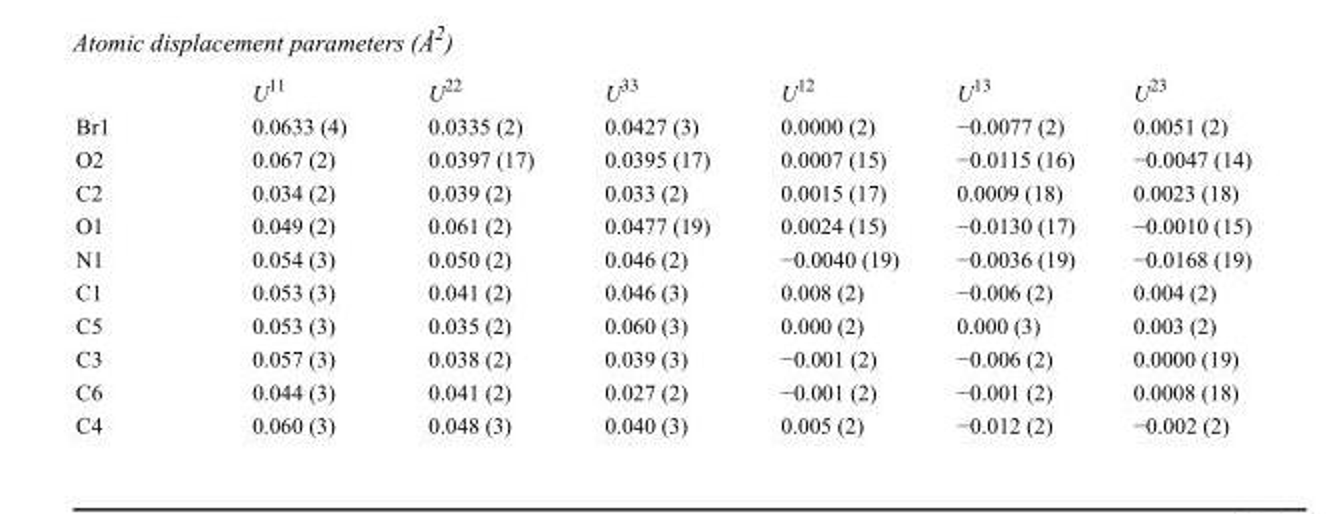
<table><thead><tr><td></td><td>U<sup>11</sup></td><td>U<sup>22</sup></td><td>U<sup>33</sup></td><td>U<sup>12</sup></td><td>U<sup>13</sup></td><td>U<sup>23</sup></td></tr></thead><tbody><tr><td>Br1</td><td>0.0633 (4)</td><td>0.0335 (2)</td><td>0.0427 (3)</td><td>0.0000 (2)</td><td>−0.0077 (2)</td><td>0.0051 (2)</td></tr><tr><td>O2</td><td>0.067 (2)</td><td>0.0397 (17)</td><td>0.0395 (17)</td><td>0.0007 (15)</td><td>−0.0115 (16)</td><td>−0.0047 (14)</td></tr><tr><td>C2</td><td>0.034 (2)</td><td>0.039 (2)</td><td>0.033 (2)</td><td>0.0015 (17)</td><td>0.0009 (18)</td><td>0.0023 (18)</td></tr><tr><td>O1</td><td>0.049 (2)</td><td>0.061 (2)</td><td>0.0477 (19)</td><td>0.0024 (15)</td><td>−0.0130 (17)</td><td>−0.0010 (15)</td></tr><tr><td>N1</td><td>0.054 (3)</td><td>0.050 (2)</td><td>0.046 (2)</td><td>−0.0040 (19)</td><td>−0.0036 (19)</td><td>−0.0168 (19)</td></tr><tr><td>C1</td><td>0.053 (3)</td><td>0.041 (2)</td><td>0.046 (3)</td><td>0.008 (2)</td><td>−0.006 (2)</td><td>0.004 (2)</td></tr><tr><td>C5</td><td>0.053 (3)</td><td>0.035 (2)</td><td>0.060 (3)</td><td>0.000 (2)</td><td>0.000 (3)</td><td>0.003 (2)</td></tr><tr><td>C3</td><td>0.057 (3)</td><td>0.038 (2)</td><td>0.039 (3)</td><td>−0.001 (2)</td><td>−0.006 (2)</td><td>0.0000 (19)</td></tr><tr><td>C6</td><td>0.044 (3)</td><td>0.041 (2)</td><td>0.027 (2)</td><td>−0.001 (2)</td><td>−0.001 (2)</td><td>0.0008 (18)</td></tr><tr><td>C4</td><td>0.060 (3)</td><td>0.048 (3)</td><td>0.040 (3)</td><td>0.005 (2)</td><td>−0.012 (2)</td><td>−0.002 (2)</td></tr></tbody></table>